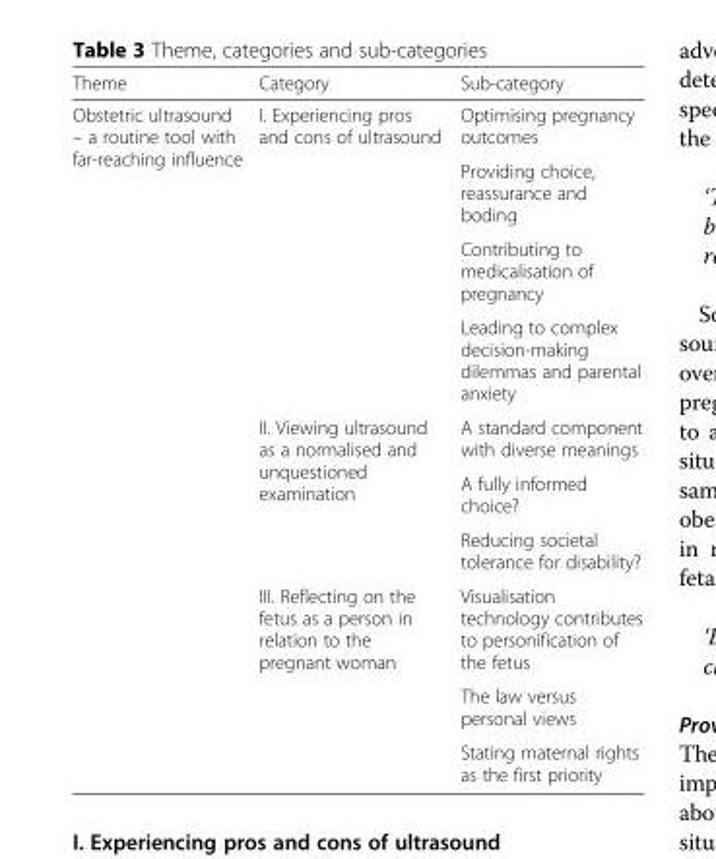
<table><thead><tr><td>Theme</td><td>Category</td><td>Sub-category</td></tr></thead><tbody><tr><td rowspan="10">Obstetric ultrasound – a routine tool with far-reaching influence</td><td rowspan="4">I. Experiencing pros and cons of ultrasound</td><td>Optimising pregnancy outcomes</td></tr><tr><td>Providing choice, reassurance and boding</td></tr><tr><td>Contributing to medicalisation of pregnancy</td></tr><tr><td>Leading to complex decision-making dilemmas and parental anxiety</td></tr><tr><td rowspan="3">II. Viewing ultrasound as a normalised and unquestioned examination</td><td>A standard component with diverse meanings</td></tr><tr><td>A fully informed choice?</td></tr><tr><td>Reducing societal tolerance for disability?</td></tr><tr><td rowspan="3">III. Reflecting on the fetus as a person in relation to the pregnant woman</td><td>Visualisation technology contributes to personification of the fetus</td></tr><tr><td>The law versus personal views</td></tr><tr><td>Stating maternal rights as the first priority</td></tr></tbody></table>